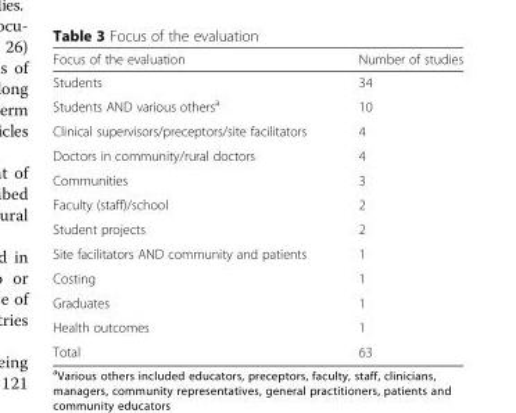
<table><thead><tr><td>Focus of the evaluation</td><td>Number of studies</td></tr></thead><tbody><tr><td>Students</td><td>34</td></tr><tr><td>Students AND various others<sup>a</sup></td><td>10</td></tr><tr><td>Clinical supervisors/preceptors/site facilitators</td><td>4</td></tr><tr><td>Doctors in community/rural doctors</td><td>4</td></tr><tr><td>Communities</td><td>3</td></tr><tr><td>Faculty (staff)/school</td><td>2</td></tr><tr><td>Student projects</td><td>2</td></tr><tr><td>Site facilitators AND community and patients</td><td>1</td></tr><tr><td>Costing</td><td>1</td></tr><tr><td>Graduates</td><td>1</td></tr><tr><td>Health outcomes</td><td>1</td></tr><tr><td>Total</td><td>63</td></tr></tbody></table>